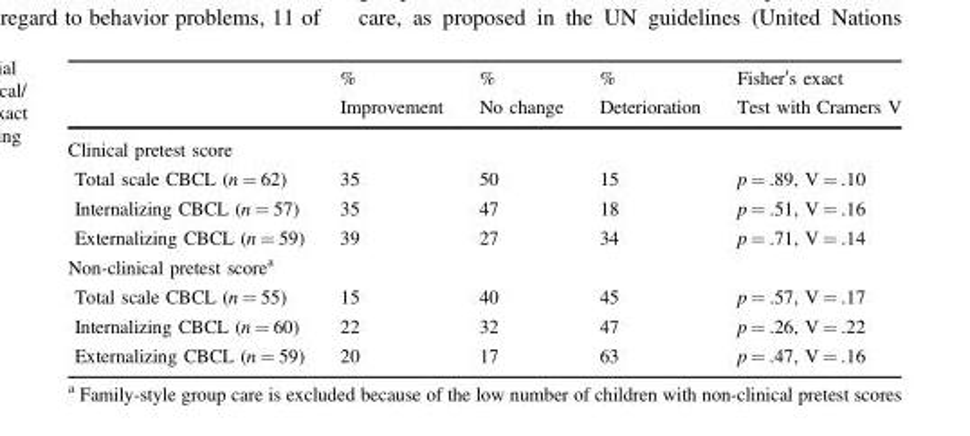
<table><thead><tr><td rowspan="2"></td><td rowspan="2">% Improvement</td><td rowspan="2">% No change</td><td rowspan="2">% Deterioration</td><td rowspan="2">Fisher’s exact Test with Cramers V</td></tr><tr></tr></thead><tbody><tr><td colspan="5">Clinical pretest score</td></tr><tr><td>Total scale CBCL (n = 62)</td><td>35</td><td>50</td><td>15</td><td>p = .89, V = .10</td></tr><tr><td>Internalizing CBCL (n = 57)</td><td>35</td><td>47</td><td>18</td><td>p = .51, V = .16</td></tr><tr><td>Externalizing CBCL (n = 59)</td><td>39</td><td>27</td><td>34</td><td>p = .71, V = .14</td></tr><tr><td colspan="5">Non-clinical pretest score<sup>a</sup></td></tr><tr><td>Total scale CBCL (n = 55)</td><td>15</td><td>40</td><td>45</td><td>p = .57, V = .17</td></tr><tr><td>Internalizing CBCL (n = 60)</td><td>22</td><td>32</td><td>47</td><td>p = .26, V = .22</td></tr><tr><td>Externalizing CBCL (n = 59)</td><td>20</td><td>17</td><td>63</td><td>p = .47, V = .16</td></tr></tbody></table>